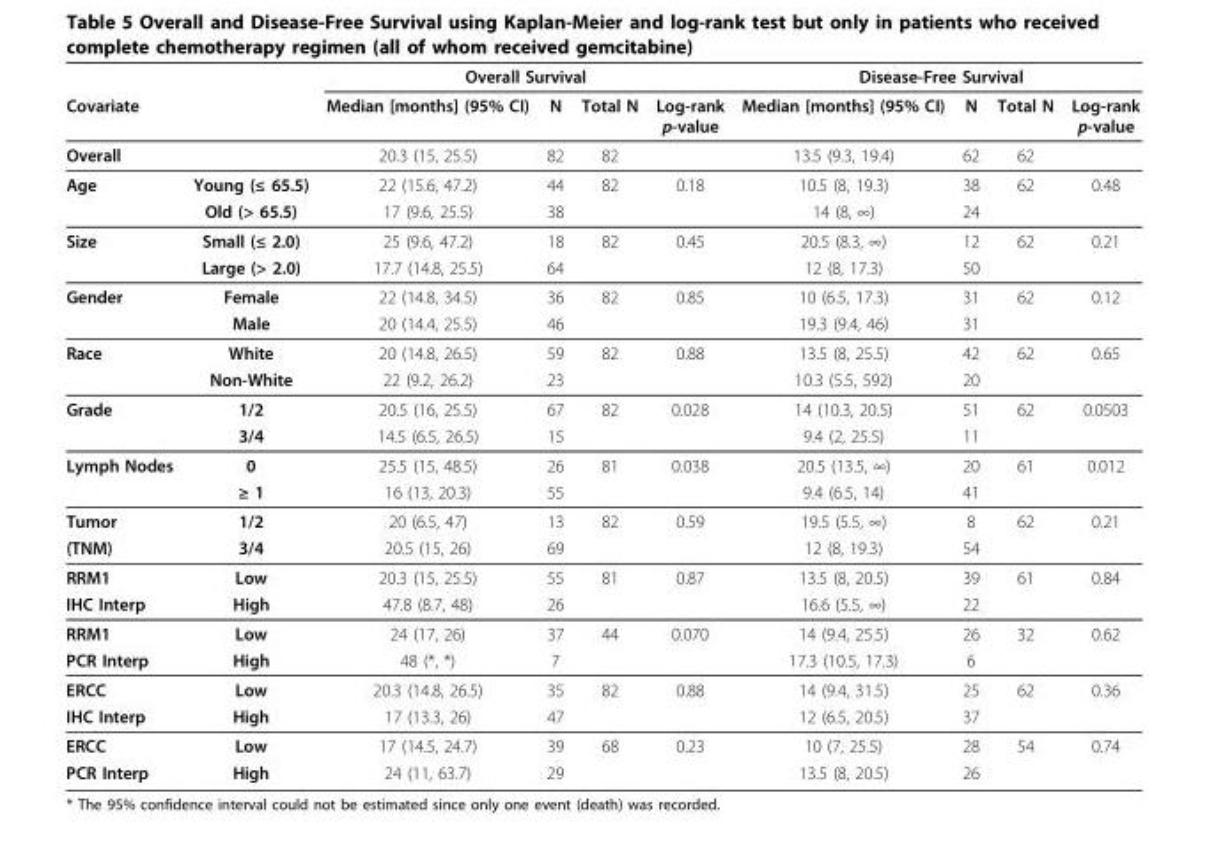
<table><thead><tr><td rowspan="2">Covariate</td><td rowspan="2"></td><td colspan="4">Overall Survival</td><td colspan="4">Disease-Free Survival</td></tr><tr><td>Median [months] (95% CI)</td><td>N</td><td>Total N</td><td>Log-rank p-value</td><td>Median [months] (95% CI)</td><td>N</td><td>Total N</td><td>Log-rank p-value</td></tr></thead><tbody><tr><td>Overall</td><td></td><td>20.3 (15, 25.5)</td><td>82</td><td>82</td><td></td><td>13.5 (9.3, 19.4)</td><td>62</td><td>62</td><td></td></tr><tr><td rowspan="2">Age</td><td>Young (≤ 65.5)</td><td>22 (15.6, 47.2)</td><td>44</td><td>82</td><td>0.18</td><td>10.5 (8, 19.3)</td><td>38</td><td>62</td><td>0.48</td></tr><tr><td>Old (&gt; 65.5)</td><td>17 (9.6, 25.5)</td><td>38</td><td></td><td></td><td>14 (8, ∞)</td><td>24</td><td></td><td></td></tr><tr><td rowspan="2">Size</td><td>Small (≤ 2.0)</td><td>25 (9.6, 47.2)</td><td>18</td><td>82</td><td>0.45</td><td>20.5 (8.3, ∞)</td><td>12</td><td>62</td><td>0.21</td></tr><tr><td>Large (&gt; 2.0)</td><td>17.7 (14.8, 25.5)</td><td>64</td><td></td><td></td><td>12 (8, 17.3)</td><td>50</td><td></td><td></td></tr><tr><td rowspan="2">Gender</td><td>Female</td><td>22 (14.8, 34.5)</td><td>36</td><td>82</td><td>0.85</td><td>10 (6.5, 17.3)</td><td>31</td><td>62</td><td>0.12</td></tr><tr><td>Male</td><td>20 (14.4, 25.5)</td><td>46</td><td></td><td></td><td>19.3 (9.4, 46)</td><td>31</td><td></td><td></td></tr><tr><td rowspan="2">Race</td><td>White</td><td>20 (14.8, 26.5)</td><td>59</td><td>82</td><td>0.88</td><td>13.5 (8, 25.5)</td><td>42</td><td>62</td><td>0.65</td></tr><tr><td>Non-White</td><td>22 (9.2, 26.2)</td><td>23</td><td></td><td></td><td>10.3 (5.5, 592)</td><td>20</td><td></td><td></td></tr><tr><td rowspan="2">Grade</td><td>1/2</td><td>20.5 (16, 25.5)</td><td>67</td><td>82</td><td>0.028</td><td>14 (10.3, 20.5)</td><td>51</td><td>62</td><td>0.0503</td></tr><tr><td>3/4</td><td>14.5 (6.5, 26.5)</td><td>15</td><td></td><td></td><td>9.4 (2, 25.5)</td><td>11</td><td></td><td></td></tr><tr><td rowspan="2">Lymph Nodes</td><td>0</td><td>25.5 (15, 48.5)</td><td>26</td><td>81</td><td>0.038</td><td>20.5 (13.5, ∞)</td><td>20</td><td>61</td><td>0.012</td></tr><tr><td>≥ 1</td><td>16 (13, 20.3)</td><td>55</td><td></td><td></td><td>9.4 (6.5, 14)</td><td>41</td><td></td><td></td></tr><tr><td>Tumor</td><td>1/2</td><td>20 (6.5, 47)</td><td>13</td><td>82</td><td>0.59</td><td>19.5 (5.5, ∞)</td><td>8</td><td>62</td><td>0.21</td></tr><tr><td>(TNM)</td><td>3/4</td><td>20.5 (15, 26)</td><td>69</td><td></td><td></td><td>12 (8, 19.3)</td><td>54</td><td></td><td></td></tr><tr><td>RRM1</td><td>Low</td><td>20.3 (15, 25.5)</td><td>55</td><td>81</td><td>0.87</td><td>13.5 (8, 20.5)</td><td>39</td><td>61</td><td>0.84</td></tr><tr><td>IHC Interp</td><td>High</td><td>47.8 (8.7, 48)</td><td>26</td><td></td><td></td><td>16.6 (5.5, ∞)</td><td>22</td><td></td><td></td></tr><tr><td>RRM1</td><td>Low</td><td>24 (17, 26)</td><td>37</td><td>44</td><td>0.070</td><td>14 (9.4, 25.5)</td><td>26</td><td>32</td><td>0.62</td></tr><tr><td>PCR Interp</td><td>High</td><td>48 (*, *)</td><td>7</td><td></td><td></td><td>17.3 (10.5, 17.3)</td><td>6</td><td></td><td></td></tr><tr><td>ERCC</td><td>Low</td><td>20.3 (14.8, 26.5)</td><td>35</td><td>82</td><td>0.88</td><td>14 (9.4, 31.5)</td><td>25</td><td>62</td><td>0.36</td></tr><tr><td>IHC Interp</td><td>High</td><td>17 (13.3, 26)</td><td>47</td><td></td><td></td><td>12 (6.5, 20.5)</td><td>37</td><td></td><td></td></tr><tr><td>ERCC</td><td>Low</td><td>17 (14.5, 24.7)</td><td>39</td><td>68</td><td>0.23</td><td>10 (7, 25.5)</td><td>28</td><td>54</td><td>0.74</td></tr><tr><td>PCR Interp</td><td>High</td><td>24 (11, 63.7)</td><td>29</td><td></td><td></td><td>13.5 (8, 20.5)</td><td>26</td><td></td><td></td></tr></tbody></table>